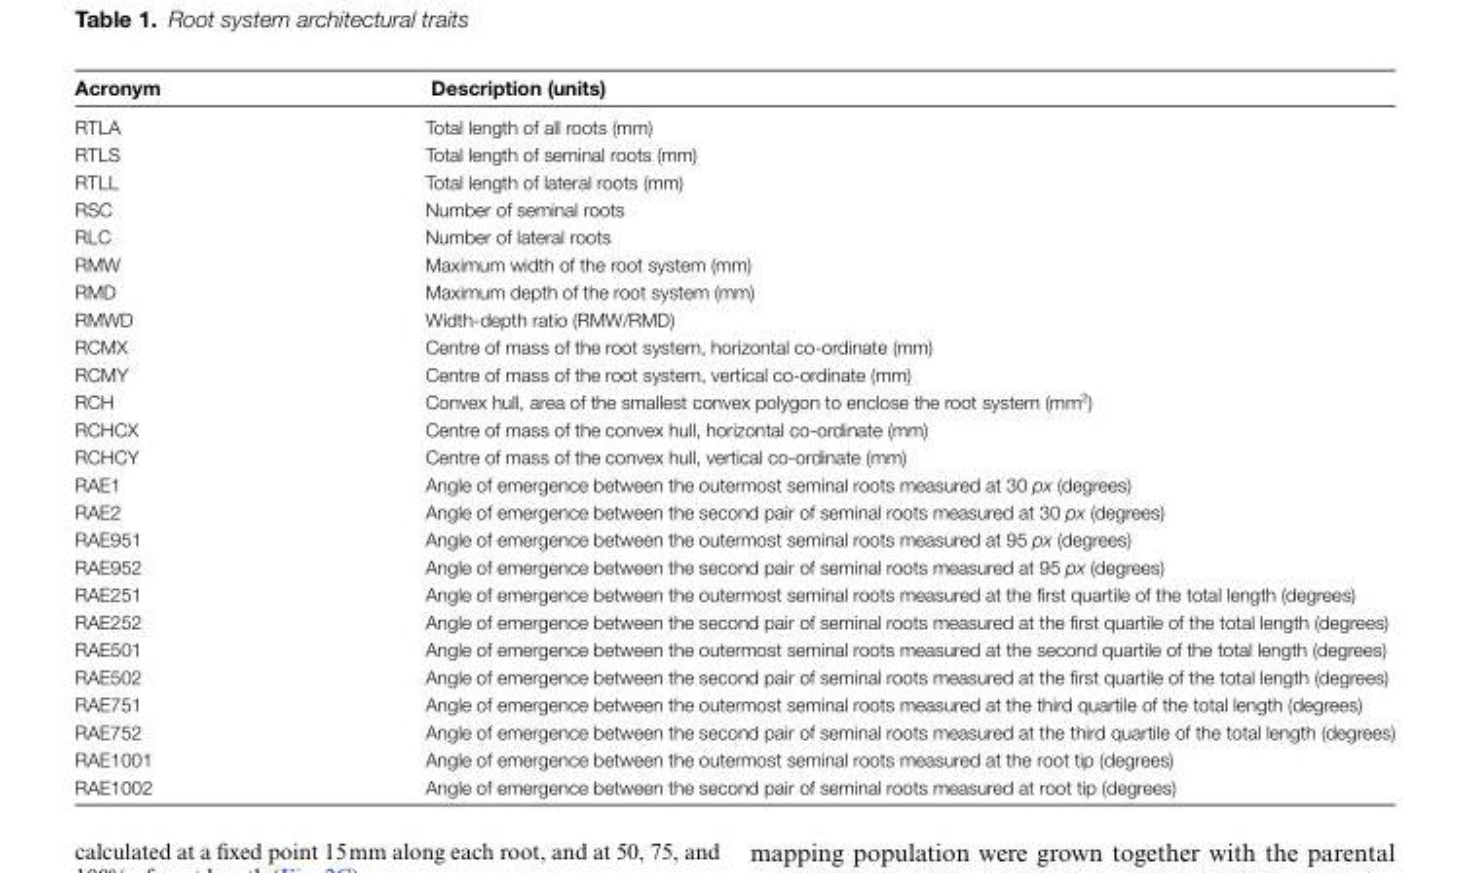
<table><thead><tr><td>Acronym</td><td>Description (units)</td></tr></thead><tbody><tr><td>RTLA</td><td>Total length of all roots (mm)</td></tr><tr><td>RTLS</td><td>Total length of seminal roots (mm)</td></tr><tr><td>RTLL</td><td>Total length of lateral roots (mm)</td></tr><tr><td>RSC</td><td>Number of seminal roots</td></tr><tr><td>RLC</td><td>Number of lateral roots</td></tr><tr><td>RMW</td><td>Maximum width of the root system (mm)</td></tr><tr><td>RMD</td><td>Maximum depth of the root system (mm)</td></tr><tr><td>RMWD</td><td>Width-depth ratio (RMW/RMD)</td></tr><tr><td>RCMX</td><td>Centre of mass of the root system, horizontal co-ordinate (mm)</td></tr><tr><td>RCMY</td><td>Centre of mass of the root system, vertical co-ordinate (mm)</td></tr><tr><td>RCH</td><td>Convex hull, area of the smallest convex polygon to enclose the root system (mm<sup>2</sup>)</td></tr><tr><td>RCHCX</td><td>Centre of mass of the convex hull, horizontal co-ordinate (mm)</td></tr><tr><td>RCHCY</td><td>Centre of mass of the convex hull, vertical co-ordinate (mm)</td></tr><tr><td>RAE1</td><td>Angle of emergence between the outermost seminal roots measured at 30 px (degrees)</td></tr><tr><td>RAE2</td><td>Angle of emergence between the second pair of seminal roots measured at 30 px (degrees)</td></tr><tr><td>RAE951</td><td>Angle of emergence between the outermost seminal roots measured at 95 px (degrees)</td></tr><tr><td>RAE952</td><td>Angle of emergence between the second pair of seminal roots measured at 95 px (degrees)</td></tr><tr><td>RAE251</td><td>Angle of emergence between the outermost seminal roots measured at the first quartile of the total length (degrees)</td></tr><tr><td>RAE252</td><td>Angle of emergence between the second pair of seminal roots measured at the first quartile of the total length (degrees)</td></tr><tr><td>RAE501</td><td>Angle of emergence between the outermost seminal roots measured at the second quartile of the total length (degrees)</td></tr><tr><td>RAE502</td><td>Angle of emergence between the second pair of seminal roots measured at the first quartile of the total length (degrees)</td></tr><tr><td>RAE751</td><td>Angle of emergence between the outermost seminal roots measured at the third quartile of the total length (degrees)</td></tr><tr><td>RAE752</td><td>Angle of emergence between the second pair of seminal roots measured at the third quartile of the total length (degrees)</td></tr><tr><td>RAE1001</td><td>Angle of emergence between the outermost seminal roots measured at the root tip (degrees)</td></tr><tr><td>RAE1002</td><td>Angle of emergence between the second pair of seminal roots measured at root tip (degrees)</td></tr></tbody></table>